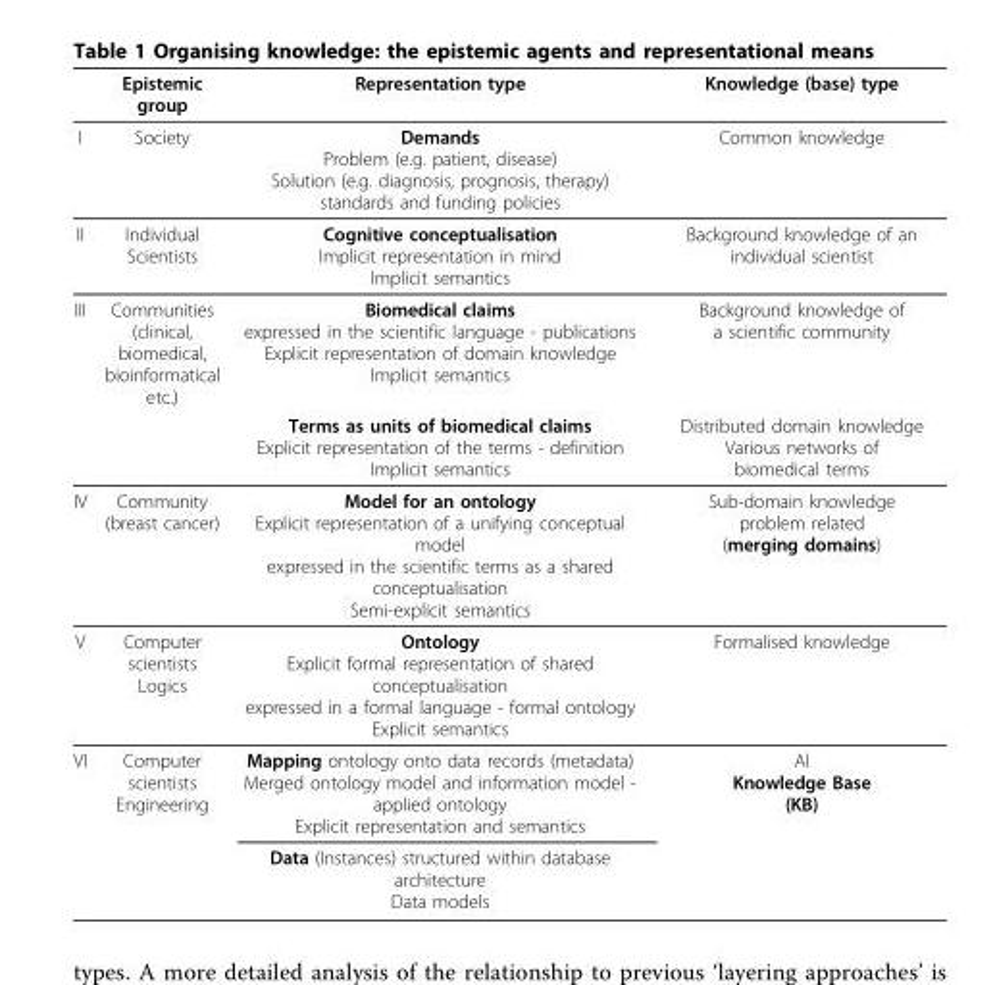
<table><thead><tr><td></td><td>Epistemic group</td><td>Representation type</td><td>Knowledge (base) type</td></tr></thead><tbody><tr><td>I</td><td>Society</td><td>Demands Problem (e.g. patient, disease) Solution (e.g. diagnosis, prognosis, therapy) standards and funding policies</td><td>Common knowledge</td></tr><tr><td>II</td><td>Individual Scientists</td><td>Cognitive conceptualisation Implicit representation in mind Implicit semantics</td><td>Background knowledge of an individual scientist</td></tr><tr><td rowspan="2">III</td><td>Communities (clinical, biomedical, bioinformatical etc.)</td><td>Biomedical claims expressed in the scientific language - publications Explicit representation of domain knowledge Implicit semantics</td><td>Background knowledge of a scientific community</td></tr><tr><td></td><td>Terms as units of biomedical claims Explicit representation of the terms - definition Implicit semantics</td><td>Distributed domain knowledge Various networks of biomedical terms</td></tr><tr><td>IV</td><td>Community (breast cancer)</td><td>Model for an ontology Explicit representation of a unifying conceptual model expressed in the scientific terms as a shared conceptualisation Semi-explicit semantics</td><td>Sub-domain knowledge problem related (merging domains)</td></tr><tr><td>V</td><td>Computer scientists Logics</td><td>Ontology Explicit formal representation of shared conceptualisation expressed in a formal language - formal ontology Explicit semantics</td><td>Formalised knowledge</td></tr><tr><td rowspan="2">VI</td><td>Computer scientists Engineering</td><td>Mapping ontology onto data records (metadata) Merged ontology model and information model - applied ontology Explicit representation and semantics</td><td>AI Knowledge Base (KB)</td></tr><tr><td></td><td>Data (Instances) structured within database architecture Data models</td><td></td></tr></tbody></table>